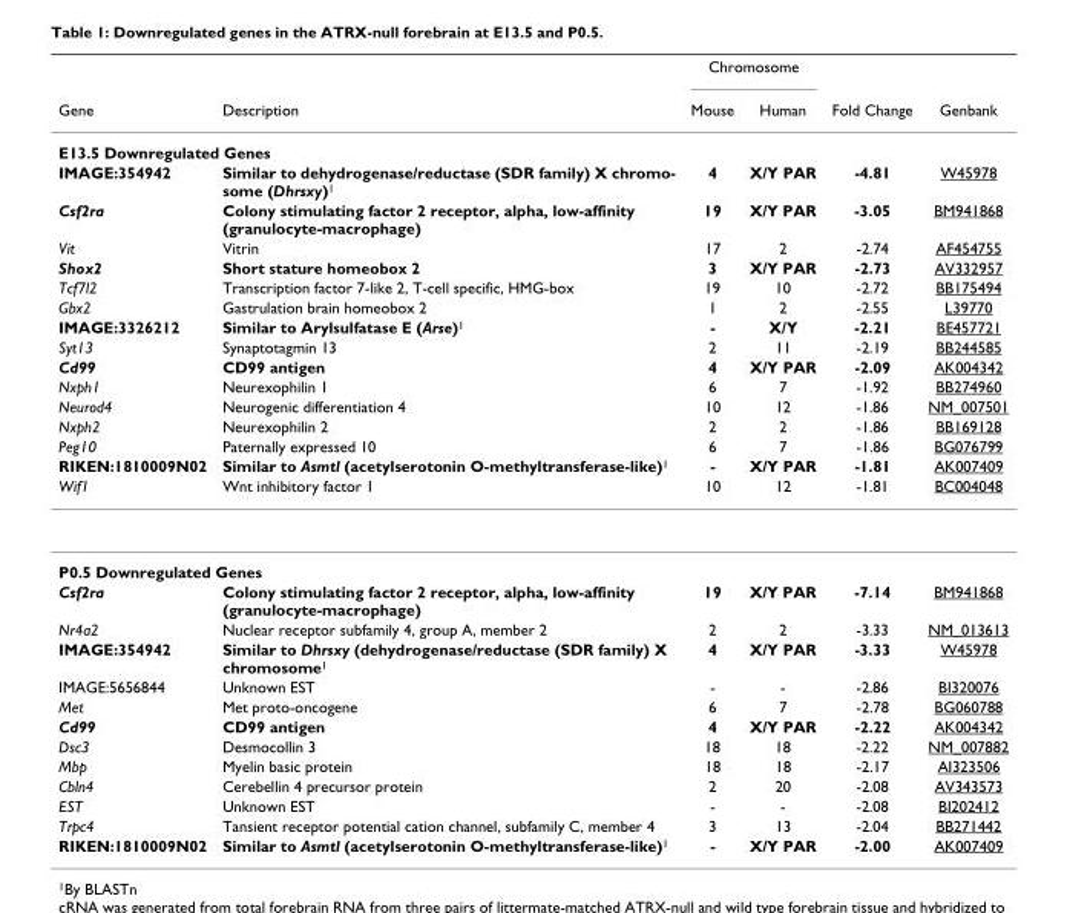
<table><thead><tr><td rowspan="2">Gene</td><td rowspan="2">Description</td><td colspan="2">Chromosome</td><td rowspan="2">Fold Change</td><td rowspan="2">Genbank</td></tr><tr><td>Mouse</td><td>Human</td></tr></thead><tbody><tr><td colspan="6">E13.5 Downregulated Genes</td></tr><tr><td>IMAGE:354942</td><td>Similar to dehydrogenase/reductase (SDR family) X chromo- some (Dhrsxy)1</td><td>4</td><td>X/Y PAR</td><td>-4.81</td><td>W45978</td></tr><tr><td>Csf2ra</td><td>Colony stimulating factor 2 receptor, alpha, low-affinity (granulocyte-macrophage)</td><td>19</td><td>X/Y PAR</td><td>-3.05</td><td>BM941868</td></tr><tr><td>Vit</td><td>Vitrin</td><td>17</td><td>2</td><td>-2.74</td><td>AF454755</td></tr><tr><td>Shox2</td><td>Short stature homeobox 2</td><td>3</td><td>X/Y PAR</td><td>-2.73</td><td>AV332957</td></tr><tr><td>Tcf7l2</td><td>Transcription factor 7-like 2, T-cell specific, HMG-box</td><td>19</td><td>10</td><td>-2.72</td><td>BB175494</td></tr><tr><td>Gbx2</td><td>Gastrulation brain homeobox 2</td><td>1</td><td>2</td><td>-2.55</td><td>L39770</td></tr><tr><td>IMAGE:3326212</td><td>Similar to Arylsulfatase E (Arse)1</td><td>-</td><td>X/Y</td><td>-2.21</td><td>BE457721</td></tr><tr><td>Syt13</td><td>Synaptotagmin 13</td><td>2</td><td>11</td><td>-2.19</td><td>BB244585</td></tr><tr><td>Cd99</td><td>CD99 antigen</td><td>4</td><td>X/Y PAR</td><td>-2.09</td><td>AK004342</td></tr><tr><td>Nxph1</td><td>Neurexophilin 1</td><td>6</td><td>7</td><td>-1.92</td><td>BB274960</td></tr><tr><td>Neurod4</td><td>Neurogenic differentiation 4</td><td>10</td><td>12</td><td>-1.86</td><td>NM_007501</td></tr><tr><td>Nxph2</td><td>Neurexophilin 2</td><td>2</td><td>2</td><td>-1.86</td><td>BB169128</td></tr><tr><td>Peg10</td><td>Paternally expressed 10</td><td>6</td><td>7</td><td>-1.86</td><td>BG076799</td></tr><tr><td>RIKEN:1810009N02</td><td>Similar to Asmtl (acetylserotonin O-methyltransferase-like)1</td><td>-</td><td>X/Y PAR</td><td>-1.81</td><td>AK007409</td></tr><tr><td>Wif1</td><td>Wnt inhibitory factor 1</td><td>10</td><td>12</td><td>-1.81</td><td>BC004048</td></tr><tr><td colspan="6">P0.5 Downregulated Genes</td></tr><tr><td>Csf2ra</td><td>Colony stimulating factor 2 receptor, alpha, low-affinity (granulocyte-macrophage)</td><td>19</td><td>X/Y PAR</td><td>-7.14</td><td>BM941868</td></tr><tr><td>Nr4a2</td><td>Nuclear receptor subfamily 4, group A, member 2</td><td>2</td><td>2</td><td>-3.33</td><td>NM_013613</td></tr><tr><td>IMAGE:354942</td><td>Similar to Dhrsxy (dehydrogenase/reductase (SDR family) X chromosome1</td><td>4</td><td>X/Y PAR</td><td>-3.33</td><td>W45978</td></tr><tr><td>IMAGE:5656844</td><td>Unknown EST</td><td>-</td><td>-</td><td>-2.86</td><td>BI320076</td></tr><tr><td>Met</td><td>Met proto-oncogene</td><td>6</td><td>7</td><td>-2.78</td><td>BG060788</td></tr><tr><td>Cd99</td><td>CD99 antigen</td><td>4</td><td>X/Y PAR</td><td>-2.22</td><td>AK004342</td></tr><tr><td>Dsc3</td><td>Desmocollin 3</td><td>18</td><td>18</td><td>-2.22</td><td>NM_007882</td></tr><tr><td>Mbp</td><td>Myelin basic protein</td><td>18</td><td>18</td><td>-2.17</td><td>AI323506</td></tr><tr><td>Cbln4</td><td>Cerebellin 4 precursor protein</td><td>2</td><td>20</td><td>-2.08</td><td>AV343573</td></tr><tr><td>EST</td><td>Unknown EST</td><td>-</td><td>-</td><td>-2.08</td><td>BI202412</td></tr><tr><td>Trpc4</td><td>Tansient receptor potential cation channel, subfamily C, member 4</td><td>3</td><td>13</td><td>-2.04</td><td>BB271442</td></tr><tr><td>RIKEN:1810009N02</td><td>Similar to Asmtl (acetylserotonin O-methyltransferase-like)1</td><td>-</td><td>X/Y PAR</td><td>-2.00</td><td>AK007409</td></tr></tbody></table>